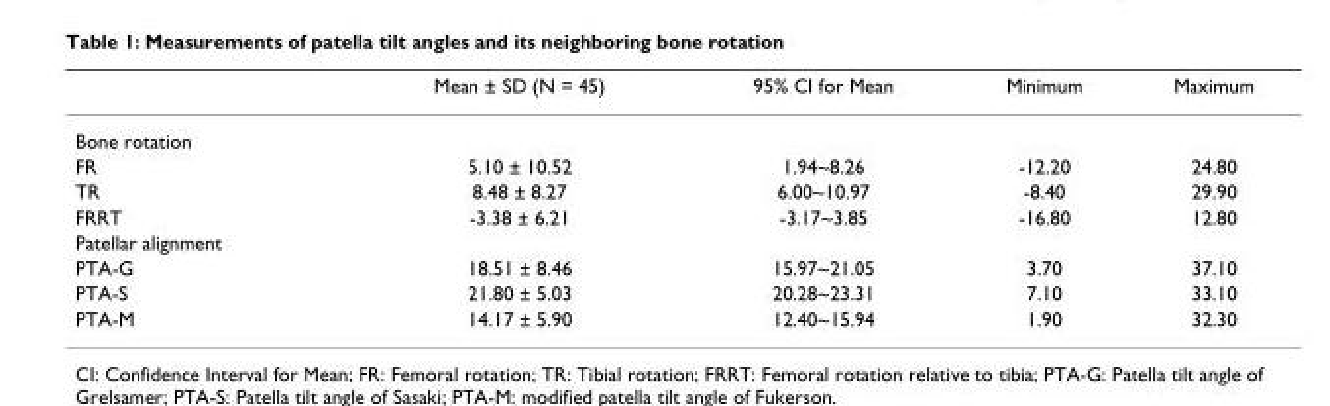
<table><thead><tr><td></td><td>Mean ± SD (N = 45)</td><td>95% CI for Mean</td><td>Minimum</td><td>Maximum</td></tr></thead><tbody><tr><td colspan="5">Bone rotation</td></tr><tr><td>FR</td><td>5.10 ± 10.52</td><td>1.94~8.26</td><td>-12.20</td><td>24.80</td></tr><tr><td>TR</td><td>8.48 ± 8.27</td><td>6.00~10.97</td><td>-8.40</td><td>29.90</td></tr><tr><td>FRRT</td><td>-3.38 ± 6.21</td><td>-3.17~3.85</td><td>-16.80</td><td>12.80</td></tr><tr><td colspan="5">Patellar alignment</td></tr><tr><td>PTA-G</td><td>18.51 ± 8.46</td><td>15.97~21.05</td><td>3.70</td><td>37.10</td></tr><tr><td>PTA-S</td><td>21.80 ± 5.03</td><td>20.28~23.31</td><td>7.10</td><td>33.10</td></tr><tr><td>PTA-M</td><td>14.17 ± 5.90</td><td>12.40~15.94</td><td>1.90</td><td>32.30</td></tr></tbody></table>